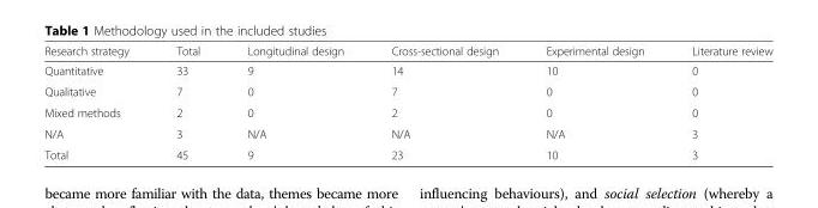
<table><thead><tr><td>Research strategy</td><td>Total</td><td>Longitudinal design</td><td>Cross-sectional design</td><td>Experimental design</td><td>Literature review</td></tr></thead><tbody><tr><td>Quantitative</td><td>33</td><td>9</td><td>14</td><td>10</td><td>0</td></tr><tr><td>Qualitative</td><td>7</td><td>0</td><td>7</td><td>0</td><td>0</td></tr><tr><td>Mixed methods</td><td>2</td><td>0</td><td>2</td><td>0</td><td>0</td></tr><tr><td>N/A</td><td>3</td><td>N/A</td><td>N/A</td><td>N/A</td><td>3</td></tr><tr><td>Total</td><td>45</td><td>9</td><td>23</td><td>10</td><td>3</td></tr></tbody></table>